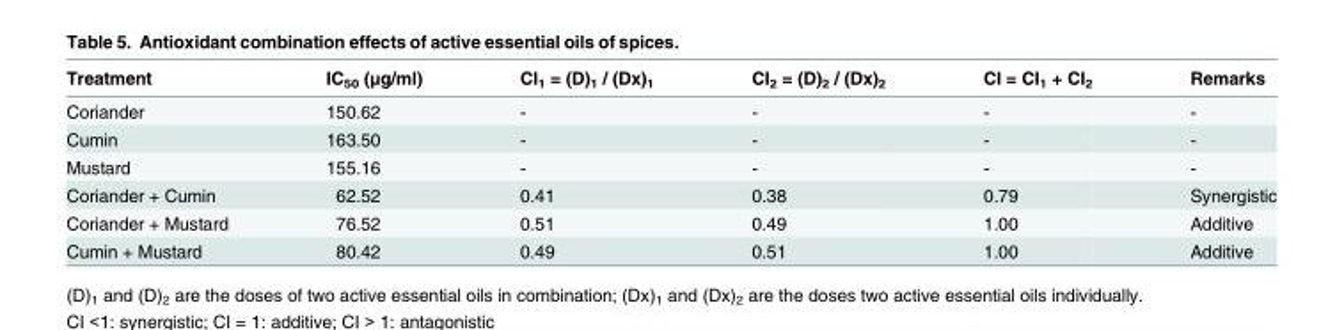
<table><thead><tr><td>Treatment</td><td>IC<sub>50</sub> (μg/ml)</td><td>CI<sub>1</sub> = (D)<sub>1</sub> / (Dx)<sub>1</sub></td><td>CI<sub>2</sub> = (D)<sub>2</sub> / (Dx)<sub>2</sub></td><td>CI = CI<sub>1</sub> + CI<sub>2</sub></td><td>Remarks</td></tr></thead><tbody><tr><td>Coriander</td><td>150.62</td><td>-</td><td>-</td><td>-</td><td>-</td></tr><tr><td>Cumin</td><td>163.50</td><td>-</td><td>-</td><td>-</td><td>-</td></tr><tr><td>Mustard</td><td>155.16</td><td>-</td><td>-</td><td>-</td><td>-</td></tr><tr><td>Coriander + Cumin</td><td>62.52</td><td>0.41</td><td>0.38</td><td>0.79</td><td>Synergistic</td></tr><tr><td>Coriander + Mustard</td><td>76.52</td><td>0.51</td><td>0.49</td><td>1.00</td><td>Additive</td></tr><tr><td>Cumin + Mustard</td><td>80.42</td><td>0.49</td><td>0.51</td><td>1.00</td><td>Additive</td></tr></tbody></table>